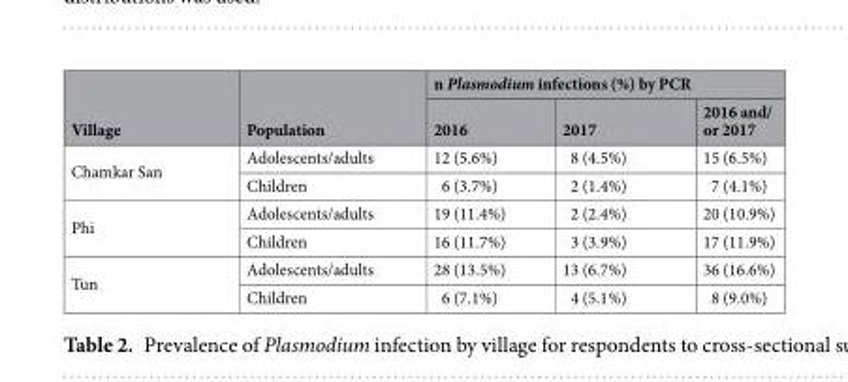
<table><thead><tr><td rowspan="2">Village</td><td rowspan="2">Population</td><td colspan="3">n Plasmodium infections (%) by PCR</td></tr><tr><td>2016</td><td>2017</td><td>2016 and/ or 2017</td></tr></thead><tbody><tr><td rowspan="2">Chamkar San</td><td>Adolescents/adults</td><td>12 (5.6%)</td><td>8 (4.5%)</td><td>15 (6.5%)</td></tr><tr><td>Children</td><td>6 (3.7%)</td><td>2 (1.4%)</td><td>7 (4.1%)</td></tr><tr><td rowspan="2">Phi</td><td>Adolescents/adults</td><td>19 (11.4%)</td><td>2 (2.4%)</td><td>20 (10.9%)</td></tr><tr><td>Children</td><td>16 (11.7%)</td><td>3 (3.9%)</td><td>17 (11.9%)</td></tr><tr><td rowspan="2">Tun</td><td>Adolescents/adults</td><td>28 (13.5%)</td><td>13 (6.7%)</td><td>36 (16.6%)</td></tr><tr><td>Children</td><td>6 (7.1%)</td><td>4 (5.1%)</td><td>8 (9.0%)</td></tr></tbody></table>